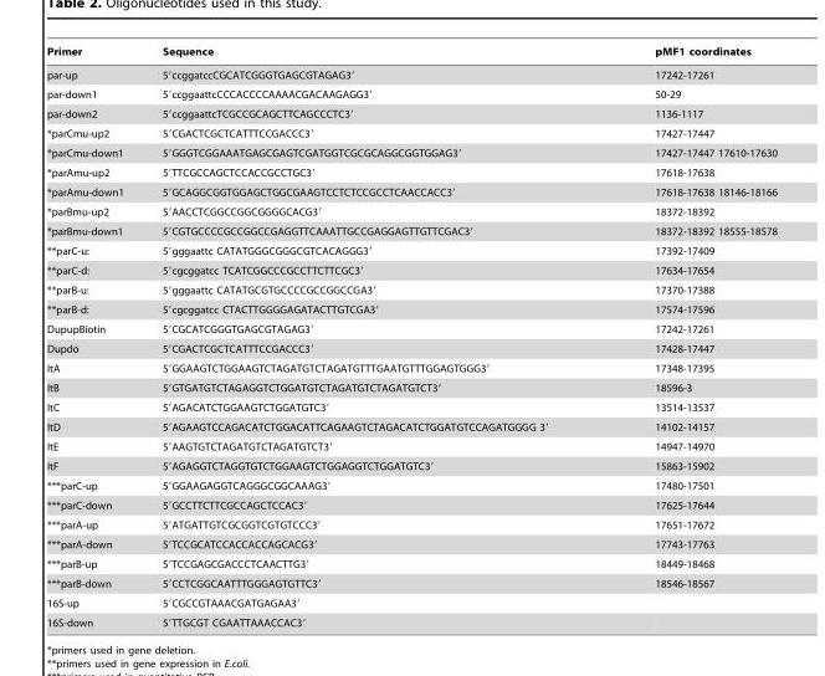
<table><thead><tr><td>Primer</td><td>Sequence</td><td>pMF1 coordinates</td></tr></thead><tbody><tr><td>par-up</td><td>5′ccggatccCGCATCGGGTGAGCGTAGAG3′</td><td>17242-17261</td></tr><tr><td>par-down1</td><td>5′ccggaattcCCCACCCCAAAACGACAAGAGG3′</td><td>50-29</td></tr><tr><td>par-down2</td><td>5′ccggaattcTCGCCGCAGCTTCAGCCCTC3′</td><td>1136-1117</td></tr><tr><td>*parCmu-up2</td><td>5′CGACTCGCTCATTTCCGACCC3′</td><td>17427-17447</td></tr><tr><td>*parCmu-down1</td><td>5′GGGTCGGAAATGAGCGAGTCGATGGTCGCGCAGGCGGTGGAG3′</td><td>17427-17447 17610-17630</td></tr><tr><td>*parAmu-up2</td><td>5′TTCGCCAGCTCCACCGCCTGC3′</td><td>17618-17638</td></tr><tr><td>*parAmu-down1</td><td>5′GCAGGCGGTGGAGCTGGCGAAGTCCTCTCCGCCTCAACCACC3′</td><td>17618-17638 18146-18166</td></tr><tr><td>*parBmu-up2</td><td>5′AACCTCGGCCGGCGGGGCACG3′</td><td>18372-18392</td></tr><tr><td>*parBmu-down1</td><td>5′CGTGCCCCGCCGGCCGAGGTTCAAATTGCCGAGGAGTTGTTCGAC3′</td><td>18372-18392 18555-18578</td></tr><tr><td>**parC-u:</td><td>5′gggaattc CATATGGGCGGGCGTCACAGGG3′</td><td>17392-17409</td></tr><tr><td>**parC-d:</td><td>5′cgcggatcc TCATCGGCCCGCCTTCTTCGC3′</td><td>17634-17654</td></tr><tr><td>**parB-u:</td><td>5′gggaattc CATATGCGTGCCCCGCCGGCCGA3′</td><td>17370-17388</td></tr><tr><td>**parB-d:</td><td>5′cgcggatcc CTACTTGGGGAGATACTTGTCGA3′</td><td>17574-17596</td></tr><tr><td>DupupBiotin</td><td>5′CGCATCGGGTGAGCGTAGAG3′</td><td>17242-17261</td></tr><tr><td>Dupdo</td><td>5′CGACTCGCTCATTTCCGACCC3′</td><td>17428-17447</td></tr><tr><td>ItA</td><td>5′GGAAGTCTGGAAGTCTAGATGTCTAGATGTTTGAATGTTTGGAGTGGG3′</td><td>17348-17395</td></tr><tr><td>ItB</td><td>5′GTGATGTCTAGAGGTCTGGATGTCTAGATGTCTAGATGTCT3′</td><td>18596-3</td></tr><tr><td>ItC</td><td>5′AGACATCTGGAAGTCTGGATGTC3′</td><td>13514-13537</td></tr><tr><td>ItD</td><td>5′AGAAGTCCAGACATCTGGACATTCAGAAGTCTAGACATCTGGATGTCCAGATGGGG 3′</td><td>14102-14157</td></tr><tr><td>ItE</td><td>5′AAGTGTCTAGATGTCTAGATGTCT3′</td><td>14947-14970</td></tr><tr><td>ItF</td><td>5′AGAGGTCTAGGTGTCTGGAAGTCTGGAGGTCTGGATGTC3′</td><td>15863-15902</td></tr><tr><td>***parC-up</td><td>5′GGAAGAGGTCAGGGCGGCAAAG3′</td><td>17480-17501</td></tr><tr><td>***parC-down</td><td>5′GCCTTCTTCGCCAGCTCCAC3′</td><td>17625-17644</td></tr><tr><td>***parA-up</td><td>5′ATGATTGTCGCGGTCGTGTCCC3′</td><td>17651-17672</td></tr><tr><td>***parA-down</td><td>5′TCCGCATCCACCACCAGCACG3′</td><td>17743-17763</td></tr><tr><td>***parB-up</td><td>5′TCCGAGCGACCCTCAACTTG3′</td><td>18449-18468</td></tr><tr><td>***parB-down</td><td>5′CCTCGGCAATTTGGGAGTGTTC3′</td><td>18546-18567</td></tr><tr><td>16S-up</td><td>5′CGCCGTAAACGATGAGAA3′</td><td></td></tr><tr><td>16S-down</td><td>5′TTGCGT CGAATTAAACCAC3′</td><td></td></tr></tbody></table>